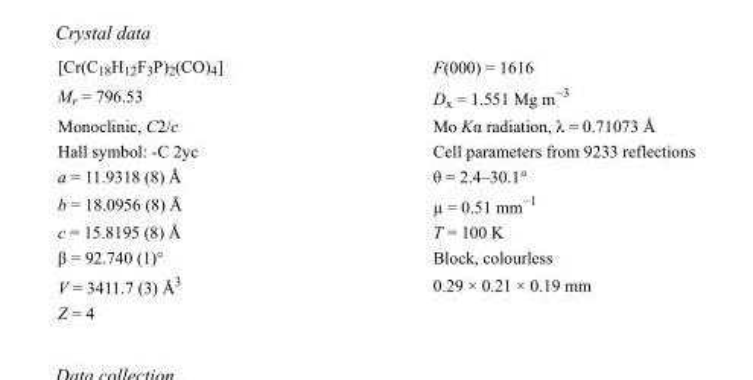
<table><tbody><tr><td>[Cr(C<sub>18</sub>H<sub>12</sub>F<sub>3</sub>P)<sub>2</sub>(CO)<sub>4</sub>]</td><td>F(000) = 1616</td></tr><tr><td>M<sub>r</sub> = 796.53</td><td>D<sub>x</sub> = 1.551 Mg m<sup>−3</sup></td></tr><tr><td>Monoclinic, C2/c</td><td>Mo Kα radiation, λ = 0.71073 Å</td></tr><tr><td>Hall symbol: -C 2yc</td><td>Cell parameters from 9233 reflections</td></tr><tr><td>a = 11.9318 (8) Å</td><td>θ = 2.4–30.1°</td></tr><tr><td>b = 18.0956 (8) Å</td><td>µ = 0.51 mm<sup>−1</sup></td></tr><tr><td>c = 15.8195 (8) Å</td><td>T = 100 K</td></tr><tr><td>β = 92.740 (1)°</td><td>Block, colourless</td></tr><tr><td>V = 3411.7 (3) Å<sup>3</sup></td><td>0.29 × 0.21 × 0.19 mm</td></tr><tr><td>Z = 4</td><td></td></tr></tbody></table>